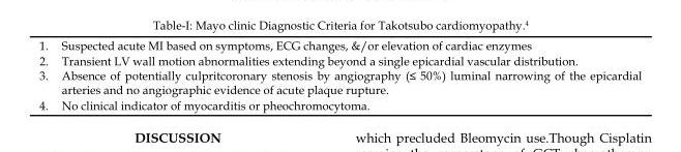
<table><tbody><tr><td>1.</td><td>Suspected acute MI based on symptoms, ECG changes, &amp;/or elevation of cardiac enzymes</td></tr><tr><td>2.</td><td>Transient LV wall motion abnormalities extending beyond a single epicardial vascular distribution.</td></tr><tr><td>3.</td><td>Absence of potentially culpritcoronary stenosis by angiography (≤ 50%) luminal narrowing of the epicardial arteries and no angiographic evidence of acute plaque rupture.</td></tr><tr><td>4.</td><td>No clinical indicator of myocarditis or pheochromocytoma.</td></tr></tbody></table>